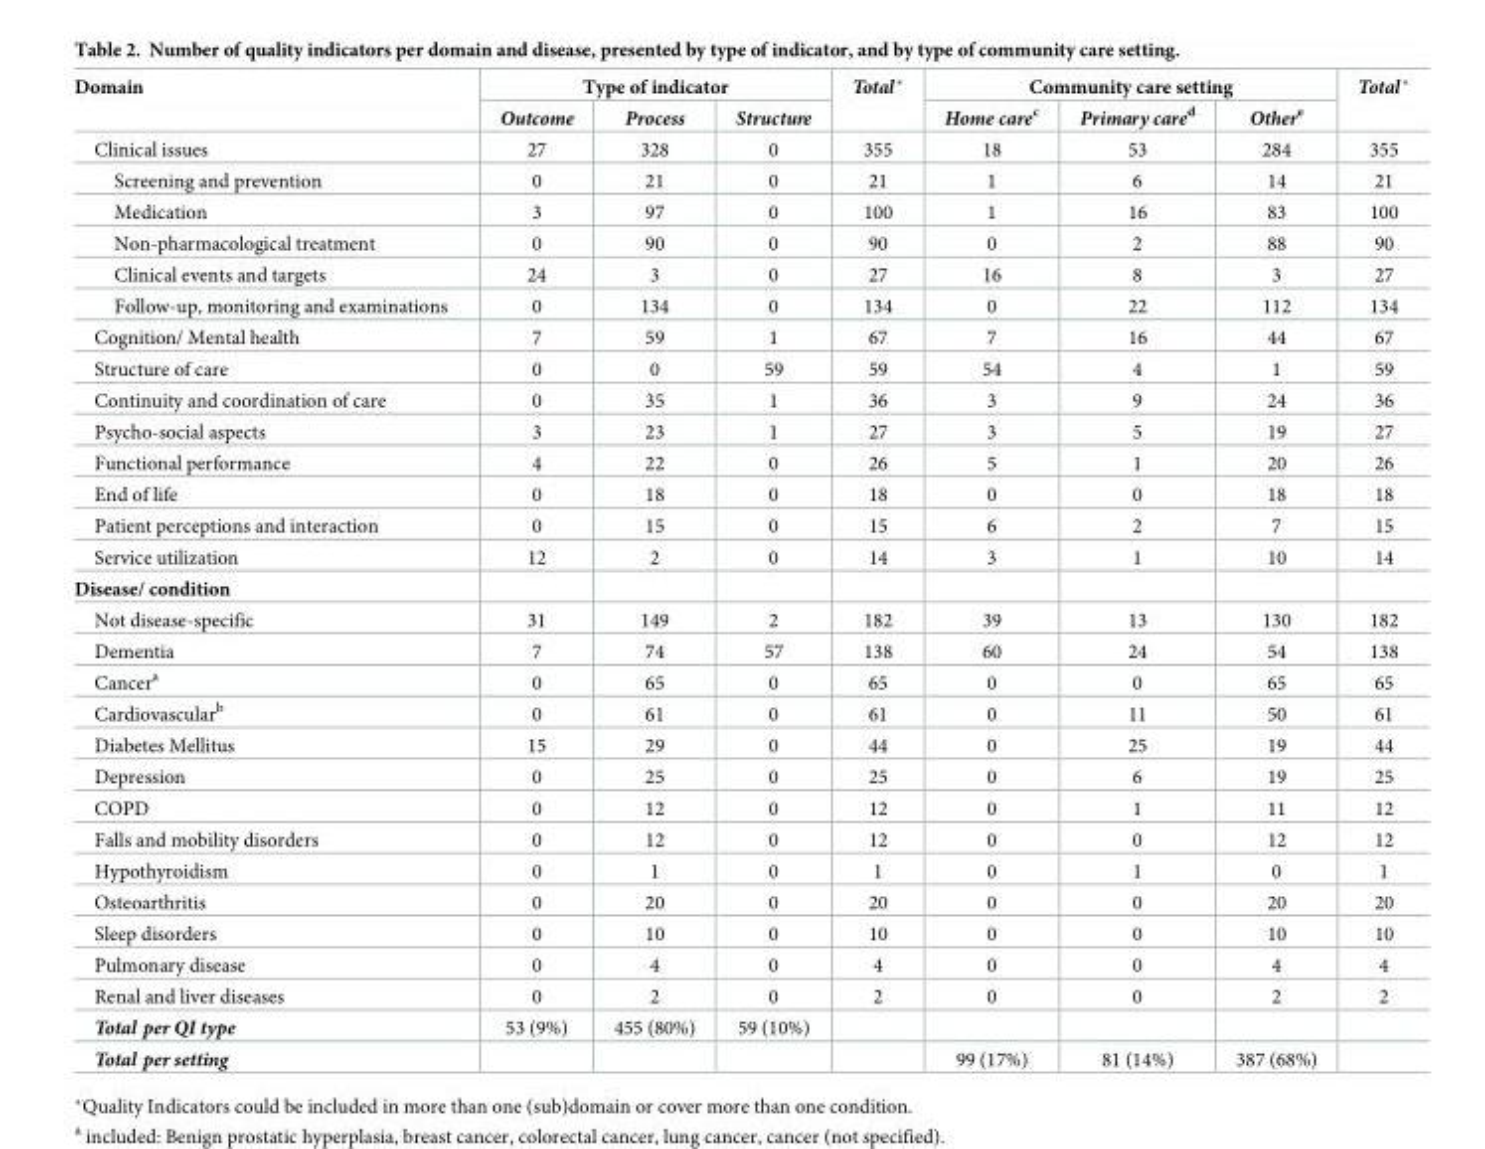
<table><thead><tr><td rowspan="2">Domain</td><td colspan="3">Type of indicator</td><td rowspan="2">Total*</td><td colspan="3">Community care setting</td><td rowspan="2">Total*</td></tr><tr><td>Outcome</td><td>Process</td><td>Structure</td><td>Home care<sup>c</sup></td><td>Primary care<sup>d</sup></td><td>Other<sup>e</sup></td></tr></thead><tbody><tr><td>Clinical issues</td><td>27</td><td>328</td><td>0</td><td>355</td><td>18</td><td>53</td><td>284</td><td>355</td></tr><tr><td>Screening and prevention</td><td>0</td><td>21</td><td>0</td><td>21</td><td>1</td><td>6</td><td>14</td><td>21</td></tr><tr><td>Medication</td><td>3</td><td>97</td><td>0</td><td>100</td><td>1</td><td>16</td><td>83</td><td>100</td></tr><tr><td>Non-pharmacological treatment</td><td>0</td><td>90</td><td>0</td><td>90</td><td>0</td><td>2</td><td>88</td><td>90</td></tr><tr><td>Clinical events and targets</td><td>24</td><td>3</td><td>0</td><td>27</td><td>16</td><td>8</td><td>3</td><td>27</td></tr><tr><td>Follow-up, monitoring and examinations</td><td>0</td><td>134</td><td>0</td><td>134</td><td>0</td><td>22</td><td>112</td><td>134</td></tr><tr><td>Cognition/ Mental health</td><td>7</td><td>59</td><td>1</td><td>67</td><td>7</td><td>16</td><td>44</td><td>67</td></tr><tr><td>Structure of care</td><td>0</td><td>0</td><td>59</td><td>59</td><td>54</td><td>4</td><td>1</td><td>59</td></tr><tr><td>Continuity and coordination of care</td><td>0</td><td>35</td><td>1</td><td>36</td><td>3</td><td>9</td><td>24</td><td>36</td></tr><tr><td>Psycho-social aspects</td><td>3</td><td>23</td><td>1</td><td>27</td><td>3</td><td>5</td><td>19</td><td>27</td></tr><tr><td>Functional performance</td><td>4</td><td>22</td><td>0</td><td>26</td><td>5</td><td>1</td><td>20</td><td>26</td></tr><tr><td>End of life</td><td>0</td><td>18</td><td>0</td><td>18</td><td>0</td><td>0</td><td>18</td><td>18</td></tr><tr><td>Patient perceptions and interaction</td><td>0</td><td>15</td><td>0</td><td>15</td><td>6</td><td>2</td><td>7</td><td>15</td></tr><tr><td>Service utilization</td><td>12</td><td>2</td><td>0</td><td>14</td><td>3</td><td>1</td><td>10</td><td>14</td></tr><tr><td colspan="9">Disease/ condition</td></tr><tr><td>Not disease-specific</td><td>31</td><td>149</td><td>2</td><td>182</td><td>39</td><td>13</td><td>130</td><td>182</td></tr><tr><td>Dementia</td><td>7</td><td>74</td><td>57</td><td>138</td><td>60</td><td>24</td><td>54</td><td>138</td></tr><tr><td>Cancer<sup>a</sup></td><td>0</td><td>65</td><td>0</td><td>65</td><td>0</td><td>0</td><td>65</td><td>65</td></tr><tr><td>Cardiovascular<sup>b</sup></td><td>0</td><td>61</td><td>0</td><td>61</td><td>0</td><td>11</td><td>50</td><td>61</td></tr><tr><td>Diabetes Mellitus</td><td>15</td><td>29</td><td>0</td><td>44</td><td>0</td><td>25</td><td>19</td><td>44</td></tr><tr><td>Depression</td><td>0</td><td>25</td><td>0</td><td>25</td><td>0</td><td>6</td><td>19</td><td>25</td></tr><tr><td>COPD</td><td>0</td><td>12</td><td>0</td><td>12</td><td>0</td><td>1</td><td>11</td><td>12</td></tr><tr><td>Falls and mobility disorders</td><td>0</td><td>12</td><td>0</td><td>12</td><td>0</td><td>0</td><td>12</td><td>12</td></tr><tr><td>Hypothyroidism</td><td>0</td><td>1</td><td>0</td><td>1</td><td>0</td><td>1</td><td>0</td><td>1</td></tr><tr><td>Osteoarthritis</td><td>0</td><td>20</td><td>0</td><td>20</td><td>0</td><td>0</td><td>20</td><td>20</td></tr><tr><td>Sleep disorders</td><td>0</td><td>10</td><td>0</td><td>10</td><td>0</td><td>0</td><td>10</td><td>10</td></tr><tr><td>Pulmonary disease</td><td>0</td><td>4</td><td>0</td><td>4</td><td>0</td><td>0</td><td>4</td><td>4</td></tr><tr><td>Renal and liver diseases</td><td>0</td><td>2</td><td>0</td><td>2</td><td>0</td><td>0</td><td>2</td><td>2</td></tr><tr><td>Total per QI type</td><td>53 (9%)</td><td>455 (80%)</td><td>59 (10%)</td><td></td><td></td><td></td><td></td><td></td></tr><tr><td>Total per setting</td><td></td><td></td><td></td><td></td><td>99 (17%)</td><td>81 (14%)</td><td>387 (68%)</td><td></td></tr></tbody></table>